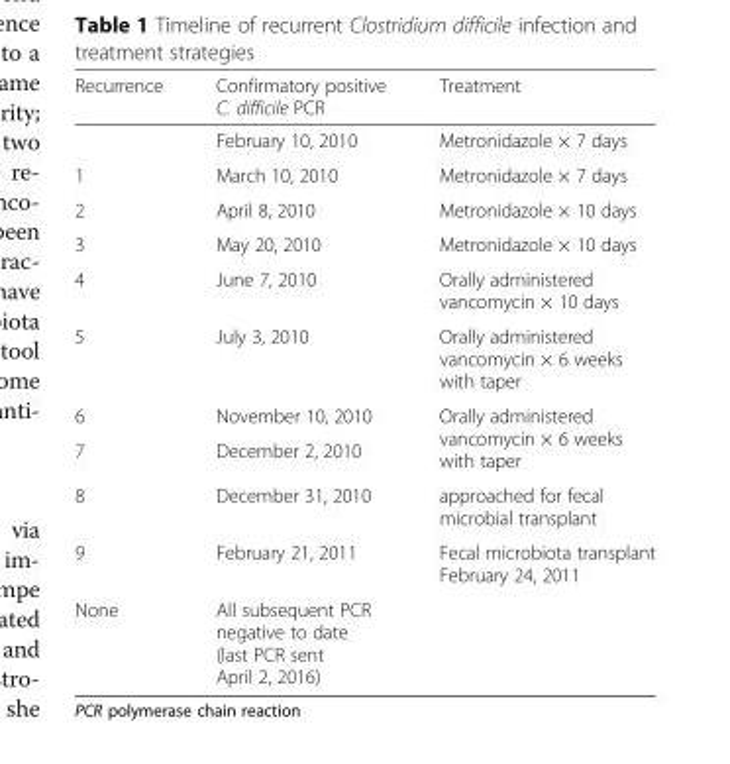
<table><thead><tr><td>Recurrence</td><td>Confirmatory positive C. difficile PCR</td><td>Treatment</td></tr></thead><tbody><tr><td></td><td>February 10, 2010</td><td>Metronidazole × 7 days</td></tr><tr><td>1</td><td>March 10, 2010</td><td>Metronidazole × 7 days</td></tr><tr><td>2</td><td>April 8, 2010</td><td>Metronidazole × 10 days</td></tr><tr><td>3</td><td>May 20, 2010</td><td>Metronidazole × 10 days</td></tr><tr><td>4</td><td>June 7, 2010</td><td>Orally administered vancomycin × 10 days</td></tr><tr><td>5</td><td>July 3, 2010</td><td>Orally administered vancomycin × 6 weeks with taper</td></tr><tr><td>6</td><td>November 10, 2010</td><td rowspan="2">Orally administered vancomycin × 6 weeks with taper</td></tr><tr><td>7</td><td>December 2, 2010</td></tr><tr><td>8</td><td>December 31, 2010</td><td>approached for fecal microbial transplant</td></tr><tr><td>9</td><td>February 21, 2011</td><td>Fecal microbiota transplant February 24, 2011</td></tr><tr><td>None</td><td>All subsequent PCR negative to date (last PCR sent April 2, 2016)</td><td></td></tr></tbody></table>